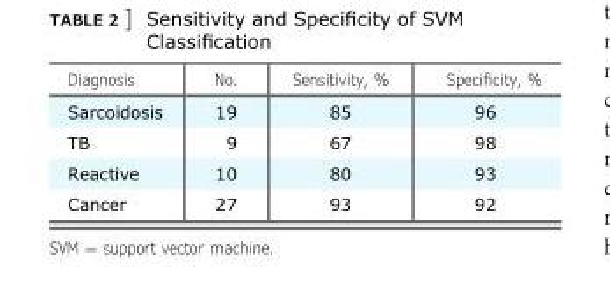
<table><thead><tr><td>Diagnosis</td><td>No.</td><td>Sensitivity, %</td><td>Specificity, %</td></tr></thead><tbody><tr><td>Sarcoidosis</td><td>19</td><td>85</td><td>96</td></tr><tr><td>TB</td><td>9</td><td>67</td><td>98</td></tr><tr><td>Reactive</td><td>10</td><td>80</td><td>93</td></tr><tr><td>Cancer</td><td>27</td><td>93</td><td>92</td></tr></tbody></table>